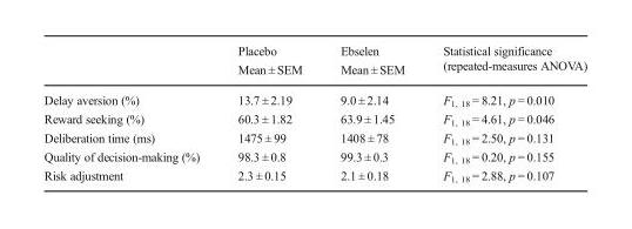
<table><thead><tr><td></td><td>Placebo Mean ± SEM</td><td>Ebselen Mean ± SEM</td><td>Statistical significance (repeated-measures ANOVA)</td></tr></thead><tbody><tr><td>Delay aversion (%)</td><td>13.7 ± 2.19</td><td>9.0 ± 2.14</td><td>F<sub>1, 18</sub> = 8.21, p = 0.010</td></tr><tr><td>Reward seeking (%)</td><td>60.3 ± 1.82</td><td>63.9 ± 1.45</td><td>F<sub>1, 18</sub> = 4.61, p = 0.046</td></tr><tr><td>Deliberation time (ms)</td><td>1475 ± 99</td><td>1408 ± 78</td><td>F<sub>1, 18</sub> = 2.50, p = 0.131</td></tr><tr><td>Quality of decision-making (%)</td><td>98.3 ± 0.8</td><td>99.3 ± 0.3</td><td>F<sub>1, 18</sub> = 0.20, p = 0.155</td></tr><tr><td>Risk adjustment</td><td>2.3 ± 0.15</td><td>2.1 ± 0.18</td><td>F<sub>1, 18</sub> = 2.88, p = 0.107</td></tr></tbody></table>